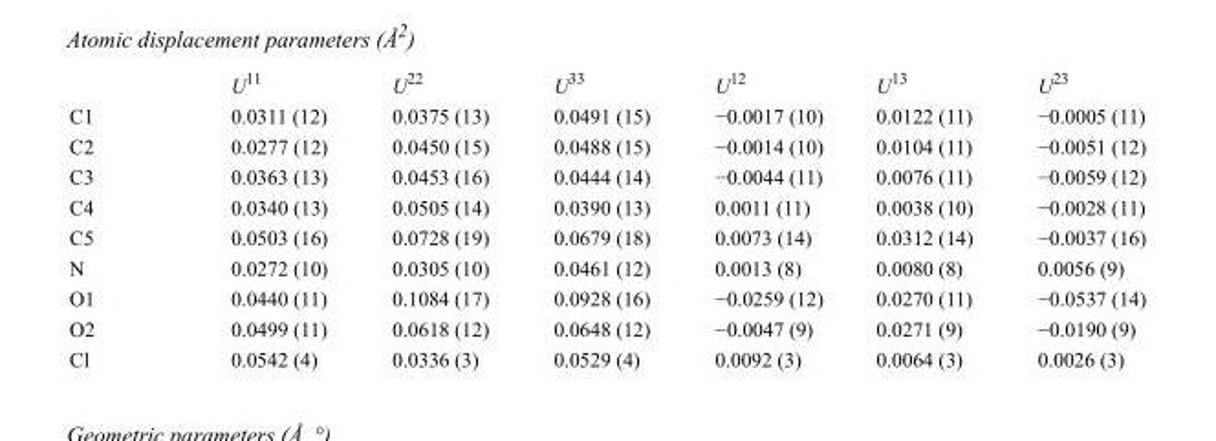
<table><thead><tr><td></td><td>U<sup>11</sup></td><td>U<sup>22</sup></td><td>U<sup>33</sup></td><td>U<sup>12</sup></td><td>U<sup>13</sup></td><td>U<sup>23</sup></td></tr></thead><tbody><tr><td>C1</td><td>0.0311 (12)</td><td>0.0375 (13)</td><td>0.0491 (15)</td><td>−0.0017 (10)</td><td>0.0122 (11)</td><td>−0.0005 (11)</td></tr><tr><td>C2</td><td>0.0277 (12)</td><td>0.0450 (15)</td><td>0.0488 (15)</td><td>−0.0014 (10)</td><td>0.0104 (11)</td><td>−0.0051 (12)</td></tr><tr><td>C3</td><td>0.0363 (13)</td><td>0.0453 (16)</td><td>0.0444 (14)</td><td>−0.0044 (11)</td><td>0.0076 (11)</td><td>−0.0059 (12)</td></tr><tr><td>C4</td><td>0.0340 (13)</td><td>0.0505 (14)</td><td>0.0390 (13)</td><td>0.0011 (11)</td><td>0.0038 (10)</td><td>−0.0028 (11)</td></tr><tr><td>C5</td><td>0.0503 (16)</td><td>0.0728 (19)</td><td>0.0679 (18)</td><td>0.0073 (14)</td><td>0.0312 (14)</td><td>−0.0037 (16)</td></tr><tr><td>N</td><td>0.0272 (10)</td><td>0.0305 (10)</td><td>0.0461 (12)</td><td>0.0013 (8)</td><td>0.0080 (8)</td><td>0.0056 (9)</td></tr><tr><td>O1</td><td>0.0440 (11)</td><td>0.1084 (17)</td><td>0.0928 (16)</td><td>−0.0259 (12)</td><td>0.0270 (11)</td><td>−0.0537 (14)</td></tr><tr><td>O2</td><td>0.0499 (11)</td><td>0.0618 (12)</td><td>0.0648 (12)</td><td>−0.0047 (9)</td><td>0.0271 (9)</td><td>−0.0190 (9)</td></tr><tr><td>Cl</td><td>0.0542 (4)</td><td>0.0336 (3)</td><td>0.0529 (4)</td><td>0.0092 (3)</td><td>0.0064 (3)</td><td>0.0026 (3)</td></tr></tbody></table>